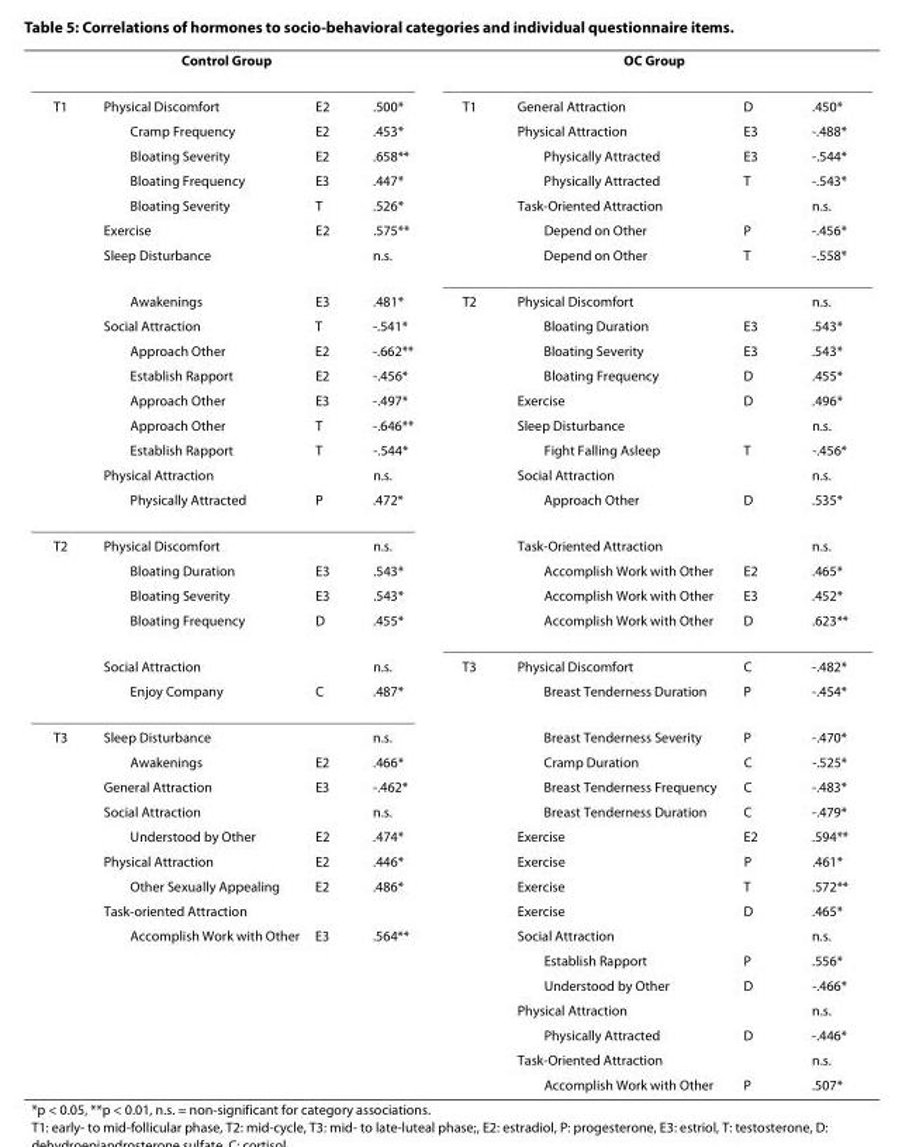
<table><tbody><tr><td colspan="4">Control Group</td><td colspan="4">OC Group</td></tr><tr><td rowspan="16">T1</td><td>Physical Discomfort</td><td>E2</td><td>.500*</td><td>T1</td><td>General Attraction</td><td>D</td><td>.450*</td></tr><tr><td>Cramp Frequency</td><td>E2</td><td>.453*</td><td></td><td>Physical Attraction</td><td>E3</td><td>-.488*</td></tr><tr><td>Bloating Severity</td><td>E2</td><td>.658**</td><td></td><td>Physically Attracted</td><td>E3</td><td>-.544*</td></tr><tr><td>Bloating Frequency</td><td>E3</td><td>.447*</td><td></td><td>Physically Attracted</td><td>T</td><td>-.543*</td></tr><tr><td>Bloating Severity</td><td>T</td><td>.526*</td><td></td><td>Task-Oriented Attraction</td><td></td><td>n.s.</td></tr><tr><td>Exercise</td><td>E2</td><td>.575**</td><td></td><td>Depend on Other</td><td>P</td><td>-.456*</td></tr><tr><td>Sleep Disturbance</td><td></td><td>n.s.</td><td></td><td>Depend on Other</td><td>T</td><td>-.558*</td></tr><tr><td>Awakenings</td><td>E3</td><td>.481*</td><td>T2</td><td>Physical Discomfort</td><td></td><td>n.s.</td></tr><tr><td>Social Attraction</td><td>T</td><td>-.541*</td><td></td><td>Bloating Duration</td><td>E3</td><td>.543*</td></tr><tr><td>Approach Other</td><td>E2</td><td>-.662**</td><td></td><td>Bloating Severity</td><td>E3</td><td>.543*</td></tr><tr><td>Establish Rapport</td><td>E2</td><td>-.456*</td><td></td><td>Bloating Frequency</td><td>D</td><td>.455*</td></tr><tr><td>Approach Other</td><td>E3</td><td>-.497*</td><td></td><td>Exercise</td><td>D</td><td>.496*</td></tr><tr><td>Approach Other</td><td>T</td><td>-.646**</td><td></td><td>Sleep Disturbance</td><td></td><td>n.s.</td></tr><tr><td>Establish Rapport</td><td>T</td><td>-.544*</td><td></td><td>Fight Falling Asleep</td><td>T</td><td>-.456*</td></tr><tr><td>Physical Attraction</td><td></td><td>n.s.</td><td></td><td>Social Attraction</td><td></td><td>n.s.</td></tr><tr><td>Physically Attracted</td><td>P</td><td>.472*</td><td></td><td>Approach Other</td><td>D</td><td>.535*</td></tr><tr><td rowspan="6">T2</td><td>Physical Discomfort</td><td></td><td>n.s.</td><td></td><td>Task-Oriented Attraction</td><td></td><td>n.s.</td></tr><tr><td>Bloating Duration</td><td>E3</td><td>.543*</td><td></td><td>Accomplish Work with Other</td><td>E2</td><td>.465*</td></tr><tr><td>Bloating Severity</td><td>E3</td><td>.543*</td><td></td><td>Accomplish Work with Other</td><td>E3</td><td>.452*</td></tr><tr><td>Bloating Frequency</td><td>D</td><td>.455*</td><td></td><td>Accomplish Work with Other</td><td>D</td><td>.623**</td></tr><tr><td>Social Attraction</td><td></td><td>n.s.</td><td>T3</td><td>Physical Discomfort</td><td>C</td><td>-.482*</td></tr><tr><td>Enjoy Company</td><td>C</td><td>.487*</td><td></td><td>Breast Tenderness Duration</td><td>P</td><td>-.454*</td></tr><tr><td rowspan="15">T3</td><td>Sleep Disturbance</td><td></td><td>n.s.</td><td></td><td>Breast Tenderness Severity</td><td>P</td><td>-.470*</td></tr><tr><td>Awakenings</td><td>E2</td><td>.466*</td><td></td><td>Cramp Duration</td><td>C</td><td>-.525*</td></tr><tr><td>General Attraction</td><td>E3</td><td>-.462*</td><td></td><td>Breast Tenderness Frequency</td><td>C</td><td>-.483*</td></tr><tr><td>Social Attraction</td><td></td><td>n.s.</td><td></td><td>Breast Tenderness Duration</td><td>C</td><td>-.479*</td></tr><tr><td>Understood by Other</td><td>E2</td><td>.474*</td><td></td><td>Exercise</td><td>E2</td><td>.594**</td></tr><tr><td>Physical Attraction</td><td>E2</td><td>.446*</td><td></td><td>Exercise</td><td>P</td><td>.461*</td></tr><tr><td>Other Sexually Appealing</td><td>E2</td><td>.486*</td><td></td><td>Exercise</td><td>T</td><td>.572**</td></tr><tr><td>Task-oriented Attraction</td><td></td><td></td><td></td><td>Exercise</td><td>D</td><td>.465*</td></tr><tr><td>Accomplish Work with Other</td><td>E3</td><td>.564**</td><td></td><td>Social Attraction</td><td></td><td>n.s.</td></tr><tr><td></td><td></td><td></td><td></td><td>Establish Rapport</td><td>P</td><td>.556*</td></tr><tr><td></td><td></td><td></td><td></td><td>Understood by Other</td><td>D</td><td>-.466*</td></tr><tr><td></td><td></td><td></td><td></td><td>Physical Attraction</td><td></td><td>n.s.</td></tr><tr><td></td><td></td><td></td><td></td><td>Physically Attracted</td><td>D</td><td>-.446*</td></tr><tr><td></td><td></td><td></td><td></td><td>Task-Oriented Attraction</td><td></td><td>n.s.</td></tr><tr><td></td><td></td><td></td><td></td><td>Accomplish Work with Other</td><td>P</td><td>.507*</td></tr></tbody></table>